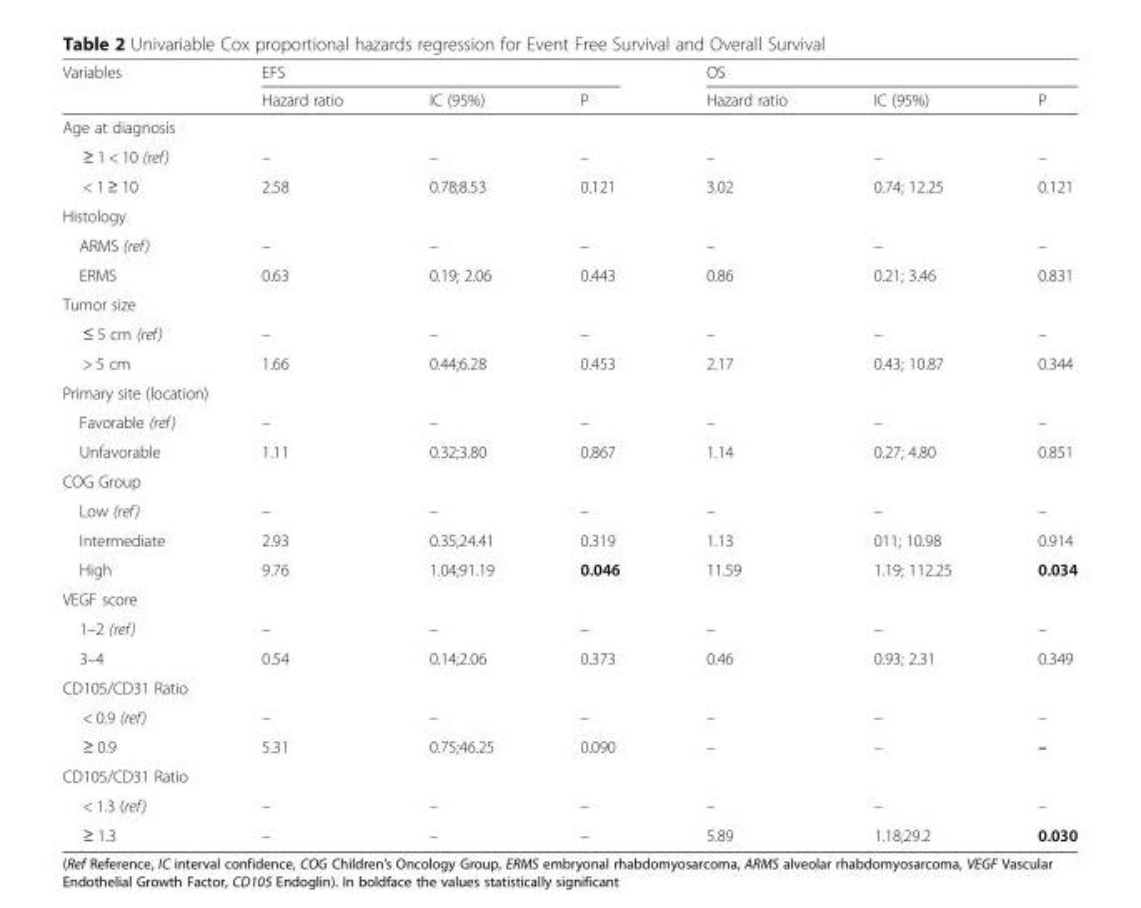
<table><thead><tr><td rowspan="2">Variables</td><td colspan="3">EFS</td><td colspan="3">OS</td></tr><tr><td>Hazard ratio</td><td>IC (95%)</td><td>P</td><td>Hazard ratio</td><td>IC (95%)</td><td>P</td></tr></thead><tbody><tr><td colspan="7">Age at diagnosis</td></tr><tr><td>≥ 1 &lt; 10 (ref)</td><td>–</td><td>–</td><td>–</td><td>–</td><td>–</td><td>–</td></tr><tr><td>&lt; 1 ≥ 10</td><td>2.58</td><td>0.78;8.53</td><td>0.121</td><td>3.02</td><td>0.74; 12.25</td><td>0.121</td></tr><tr><td colspan="7">Histology</td></tr><tr><td>ARMS (ref)</td><td>–</td><td>–</td><td>–</td><td>–</td><td>–</td><td>–</td></tr><tr><td>ERMS</td><td>0.63</td><td>0.19; 2.06</td><td>0.443</td><td>0.86</td><td>0.21; 3.46</td><td>0.831</td></tr><tr><td colspan="7">Tumor size</td></tr><tr><td>≤ 5 cm (ref)</td><td>–</td><td>–</td><td>–</td><td>–</td><td>–</td><td>–</td></tr><tr><td>&gt; 5 cm</td><td>1.66</td><td>0.44;6.28</td><td>0.453</td><td>2.17</td><td>0.43; 10.87</td><td>0.344</td></tr><tr><td colspan="7">Primary site (location)</td></tr><tr><td>Favorable (ref)</td><td>–</td><td>–</td><td>–</td><td>–</td><td>–</td><td>–</td></tr><tr><td>Unfavorable</td><td>1.11</td><td>0.32;3.80</td><td>0.867</td><td>1.14</td><td>0.27; 4.80</td><td>0.851</td></tr><tr><td colspan="7">COG Group</td></tr><tr><td>Low (ref)</td><td>–</td><td>–</td><td>–</td><td>–</td><td>–</td><td>–</td></tr><tr><td>Intermediate</td><td>2.93</td><td>0.35;24.41</td><td>0.319</td><td>1.13</td><td>011; 10.98</td><td>0.914</td></tr><tr><td>High</td><td>9.76</td><td>1.04;91.19</td><td>0.046</td><td>11.59</td><td>1.19; 112.25</td><td>0.034</td></tr><tr><td colspan="7">VEGF score</td></tr><tr><td>1–2 (ref)</td><td>–</td><td>–</td><td>–</td><td>–</td><td>–</td><td>–</td></tr><tr><td>3–4</td><td>0.54</td><td>0.14;2.06</td><td>0.373</td><td>0.46</td><td>0.93; 2.31</td><td>0.349</td></tr><tr><td colspan="7">CD105/CD31 Ratio</td></tr><tr><td>&lt; 0.9 (ref)</td><td>–</td><td>–</td><td>–</td><td>–</td><td>–</td><td>–</td></tr><tr><td>≥ 0.9</td><td>5.31</td><td>0.75;46.25</td><td>0.090</td><td>–</td><td>–</td><td>–</td></tr><tr><td colspan="7">CD105/CD31 Ratio</td></tr><tr><td>&lt; 1.3 (ref)</td><td>–</td><td>–</td><td>–</td><td>–</td><td>–</td><td>–</td></tr><tr><td>≥ 1.3</td><td>–</td><td>–</td><td>–</td><td>5.89</td><td>1.18;29.2</td><td>0.030</td></tr></tbody></table>